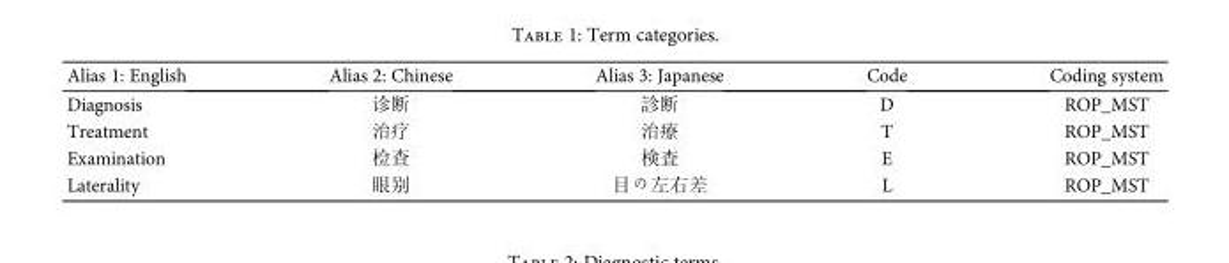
<table><thead><tr><td>Alias 1: English</td><td>Alias 2: Chinese</td><td>Alias 3: Japanese</td><td>Code</td><td>Coding system</td></tr></thead><tbody><tr><td>Diagnosis</td><td>诊断</td><td>診断</td><td>D</td><td>ROP_MST</td></tr><tr><td>Treatment</td><td>治疗</td><td>治療</td><td>T</td><td>ROP_MST</td></tr><tr><td>Examination</td><td>检查</td><td>検査</td><td>E</td><td>ROP_MST</td></tr><tr><td>Laterality</td><td>眼别</td><td>目の左右差</td><td>L</td><td>ROP_MST</td></tr></tbody></table>